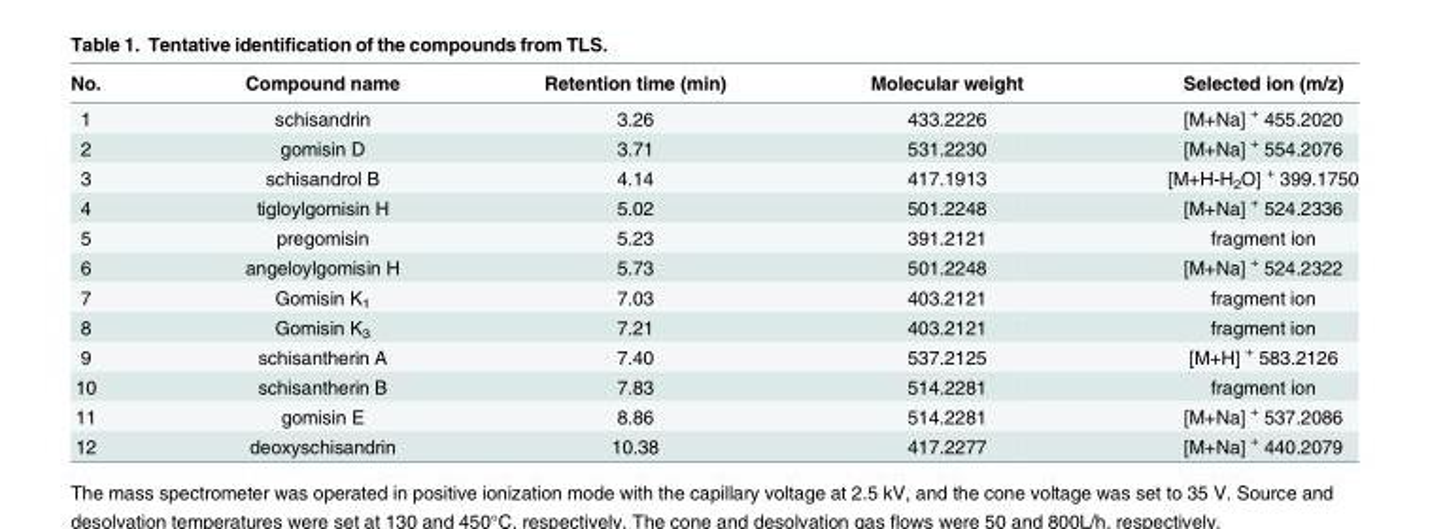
<table><thead><tr><td>No.</td><td>Compound name</td><td>Retention time (min)</td><td>Molecular weight</td><td>Selected ion (m/z)</td></tr></thead><tbody><tr><td>1</td><td>schisandrin</td><td>3.26</td><td>433.2226</td><td>[M+Na] <sup>+</sup> 455.2020</td></tr><tr><td>2</td><td>gomisin D</td><td>3.71</td><td>531.2230</td><td>[M+Na] <sup>+</sup> 554.2076</td></tr><tr><td>3</td><td>schisandrol B</td><td>4.14</td><td>417.1913</td><td>[M+H-H<sub>2</sub>O] <sup>+</sup> 399.1750</td></tr><tr><td>4</td><td>tigloylgomisin H</td><td>5.02</td><td>501.2248</td><td>[M+Na] <sup>+</sup> 524.2336</td></tr><tr><td>5</td><td>pregomisin</td><td>5.23</td><td>391.2121</td><td>fragment ion</td></tr><tr><td>6</td><td>angeloylgomisin H</td><td>5.73</td><td>501.2248</td><td>[M+Na] <sup>+</sup> 524.2322</td></tr><tr><td>7</td><td>Gomisin K<sub>1</sub></td><td>7.03</td><td>403.2121</td><td>fragment ion</td></tr><tr><td>8</td><td>Gomisin K<sub>3</sub></td><td>7.21</td><td>403.2121</td><td>fragment ion</td></tr><tr><td>9</td><td>schisantherin A</td><td>7.40</td><td>537.2125</td><td>[M+H] <sup>+</sup> 583.2126</td></tr><tr><td>10</td><td>schisantherin B</td><td>7.83</td><td>514.2281</td><td>fragment ion</td></tr><tr><td>11</td><td>gomisin E</td><td>8.86</td><td>514.2281</td><td>[M+Na] <sup>+</sup> 537.2086</td></tr><tr><td>12</td><td>deoxyschisandrin</td><td>10.38</td><td>417.2277</td><td>[M+Na] <sup>+</sup> 440.2079</td></tr></tbody></table>